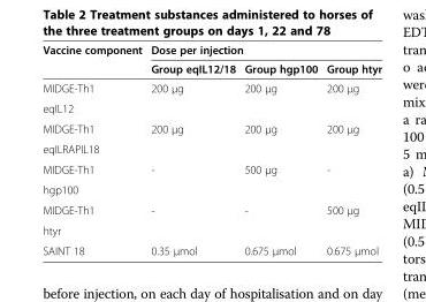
<table><thead><tr><td rowspan="2">Vaccine component</td><td colspan="3">Dose per injection</td></tr><tr><td>Group eqIL12/18</td><td>Group hgp100</td><td>Group htyr</td></tr></thead><tbody><tr><td>MIDGE-Th1</td><td rowspan="2">200 μg</td><td rowspan="2">200 μg</td><td rowspan="2">200 μg</td></tr><tr><td>eqIL12</td></tr><tr><td>MIDGE-Th1</td><td rowspan="2">200 μg</td><td rowspan="2">200 μg</td><td rowspan="2">200 μg</td></tr><tr><td>eqILRAPIL18</td></tr><tr><td>MIDGE-Th1</td><td rowspan="2">-</td><td rowspan="2">500 μg</td><td rowspan="2">-</td></tr><tr><td>hgp100</td></tr><tr><td>MIDGE-Th1</td><td rowspan="2">-</td><td rowspan="2">-</td><td rowspan="2">500 μg</td></tr><tr><td>htyr</td></tr><tr><td>SAINT 18</td><td>0.35 μmol</td><td>0.675 μmol</td><td>0.675 μmol</td></tr></tbody></table>